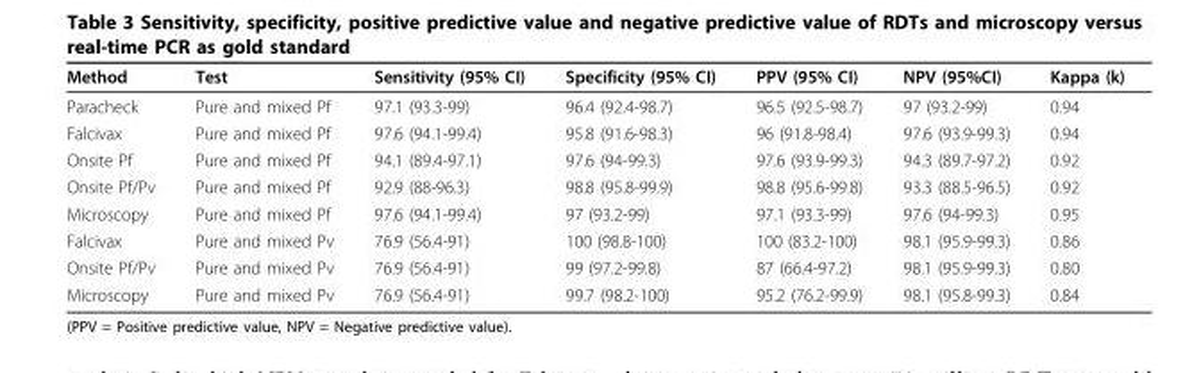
<table><thead><tr><td>Method</td><td>Test</td><td>Sensitivity (95% CI)</td><td>Specificity (95% CI)</td><td>PPV (95% CI)</td><td>NPV (95%CI)</td><td>Kappa (k)</td></tr></thead><tbody><tr><td>Paracheck</td><td>Pure and mixed Pf</td><td>97.1 (93.3-99)</td><td>96.4 (92.4-98.7)</td><td>96.5 (92.5-98.7)</td><td>97 (93.2-99)</td><td>0.94</td></tr><tr><td>Falcivax</td><td>Pure and mixed Pf</td><td>97.6 (94.1-99.4)</td><td>95.8 (91.6-98.3)</td><td>96 (91.8-98.4)</td><td>97.6 (93.9-99.3)</td><td>0.94</td></tr><tr><td>Onsite Pf</td><td>Pure and mixed Pf</td><td>94.1 (89.4-97.1)</td><td>97.6 (94-99.3)</td><td>97.6 (93.9-99.3)</td><td>94.3 (89.7-97.2)</td><td>0.92</td></tr><tr><td>Onsite Pf/Pv</td><td>Pure and mixed Pf</td><td>92.9 (88-96.3)</td><td>98.8 (95.8-99.9)</td><td>98.8 (95.6-99.8)</td><td>93.3 (88.5-96.5)</td><td>0.92</td></tr><tr><td>Microscopy</td><td>Pure and mixed Pf</td><td>97.6 (94.1-99.4)</td><td>97 (93.2-99)</td><td>97.1 (93.3-99)</td><td>97.6 (94-99.3)</td><td>0.95</td></tr><tr><td>Falcivax</td><td>Pure and mixed Pv</td><td>76.9 (56.4-91)</td><td>100 (98.8-100)</td><td>100 (83.2-100)</td><td>98.1 (95.9-99.3)</td><td>0.86</td></tr><tr><td>Onsite Pf/Pv</td><td>Pure and mixed Pv</td><td>76.9 (56.4-91)</td><td>99 (97.2-99.8)</td><td>87 (66.4-97.2)</td><td>98.1 (95.9-99.3)</td><td>0.80</td></tr><tr><td>Microscopy</td><td>Pure and mixed Pv</td><td>76.9 (56.4-91)</td><td>99.7 (98.2-100)</td><td>95.2 (76.2-99.9)</td><td>98.1 (95.8-99.3)</td><td>0.84</td></tr></tbody></table>